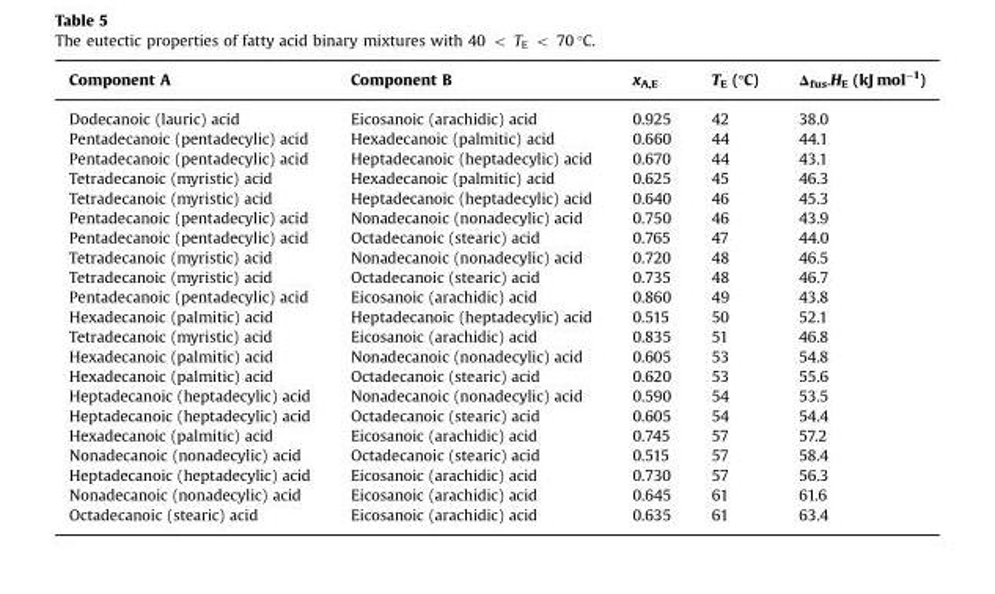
<table><thead><tr><td>Component A</td><td>Component B</td><td>x<sub>A,E</sub></td><td>T<sub>E</sub> (°C)</td><td>Δ<sub>fus</sub>.H<sub>E</sub> (kJ mol<sup>−1</sup>)</td></tr></thead><tbody><tr><td>Dodecanoic (lauric) acid</td><td>Eicosanoic (arachidic) acid</td><td>0.925</td><td>42</td><td>38.0</td></tr><tr><td>Pentadecanoic (pentadecylic) acid</td><td>Hexadecanoic (palmitic) acid</td><td>0.660</td><td>44</td><td>44.1</td></tr><tr><td>Pentadecanoic (pentadecylic) acid</td><td>Heptadecanoic (heptadecylic) acid</td><td>0.670</td><td>44</td><td>43.1</td></tr><tr><td>Tetradecanoic (myristic) acid</td><td>Hexadecanoic (palmitic) acid</td><td>0.625</td><td>45</td><td>46.3</td></tr><tr><td>Tetradecanoic (myristic) acid</td><td>Heptadecanoic (heptadecylic) acid</td><td>0.640</td><td>46</td><td>45.3</td></tr><tr><td>Pentadecanoic (pentadecylic) acid</td><td>Nonadecanoic (nonadecylic) acid</td><td>0.750</td><td>46</td><td>43.9</td></tr><tr><td>Pentadecanoic (pentadecylic) acid</td><td>Octadecanoic (stearic) acid</td><td>0.765</td><td>47</td><td>44.0</td></tr><tr><td>Tetradecanoic (myristic) acid</td><td>Nonadecanoic (nonadecylic) acid</td><td>0.720</td><td>48</td><td>46.5</td></tr><tr><td>Tetradecanoic (myristic) acid</td><td>Octadecanoic (stearic) acid</td><td>0.735</td><td>48</td><td>46.7</td></tr><tr><td>Pentadecanoic (pentadecylic) acid</td><td>Eicosanoic (arachidic) acid</td><td>0.860</td><td>49</td><td>43.8</td></tr><tr><td>Hexadecanoic (palmitic) acid</td><td>Heptadecanoic (heptadecylic) acid</td><td>0.515</td><td>50</td><td>52.1</td></tr><tr><td>Tetradecanoic (myristic) acid</td><td>Eicosanoic (arachidic) acid</td><td>0.835</td><td>51</td><td>46.8</td></tr><tr><td>Hexadecanoic (palmitic) acid</td><td>Nonadecanoic (nonadecylic) acid</td><td>0.605</td><td>53</td><td>54.8</td></tr><tr><td>Hexadecanoic (palmitic) acid</td><td>Octadecanoic (stearic) acid</td><td>0.620</td><td>53</td><td>55.6</td></tr><tr><td>Heptadecanoic (heptadecylic) acid</td><td>Nonadecanoic (nonadecylic) acid</td><td>0.590</td><td>54</td><td>53.5</td></tr><tr><td>Heptadecanoic (heptadecylic) acid</td><td>Octadecanoic (stearic) acid</td><td>0.605</td><td>54</td><td>54.4</td></tr><tr><td>Hexadecanoic (palmitic) acid</td><td>Eicosanoic (arachidic) acid</td><td>0.745</td><td>57</td><td>57.2</td></tr><tr><td>Nonadecanoic (nonadecylic) acid</td><td>Octadecanoic (stearic) acid</td><td>0.515</td><td>57</td><td>58.4</td></tr><tr><td>Heptadecanoic (heptadecylic) acid</td><td>Eicosanoic (arachidic) acid</td><td>0.730</td><td>57</td><td>56.3</td></tr><tr><td>Nonadecanoic (nonadecylic) acid</td><td>Eicosanoic (arachidic) acid</td><td>0.645</td><td>61</td><td>61.6</td></tr><tr><td>Octadecanoic (stearic) acid</td><td>Eicosanoic (arachidic) acid</td><td>0.635</td><td>61</td><td>63.4</td></tr></tbody></table>